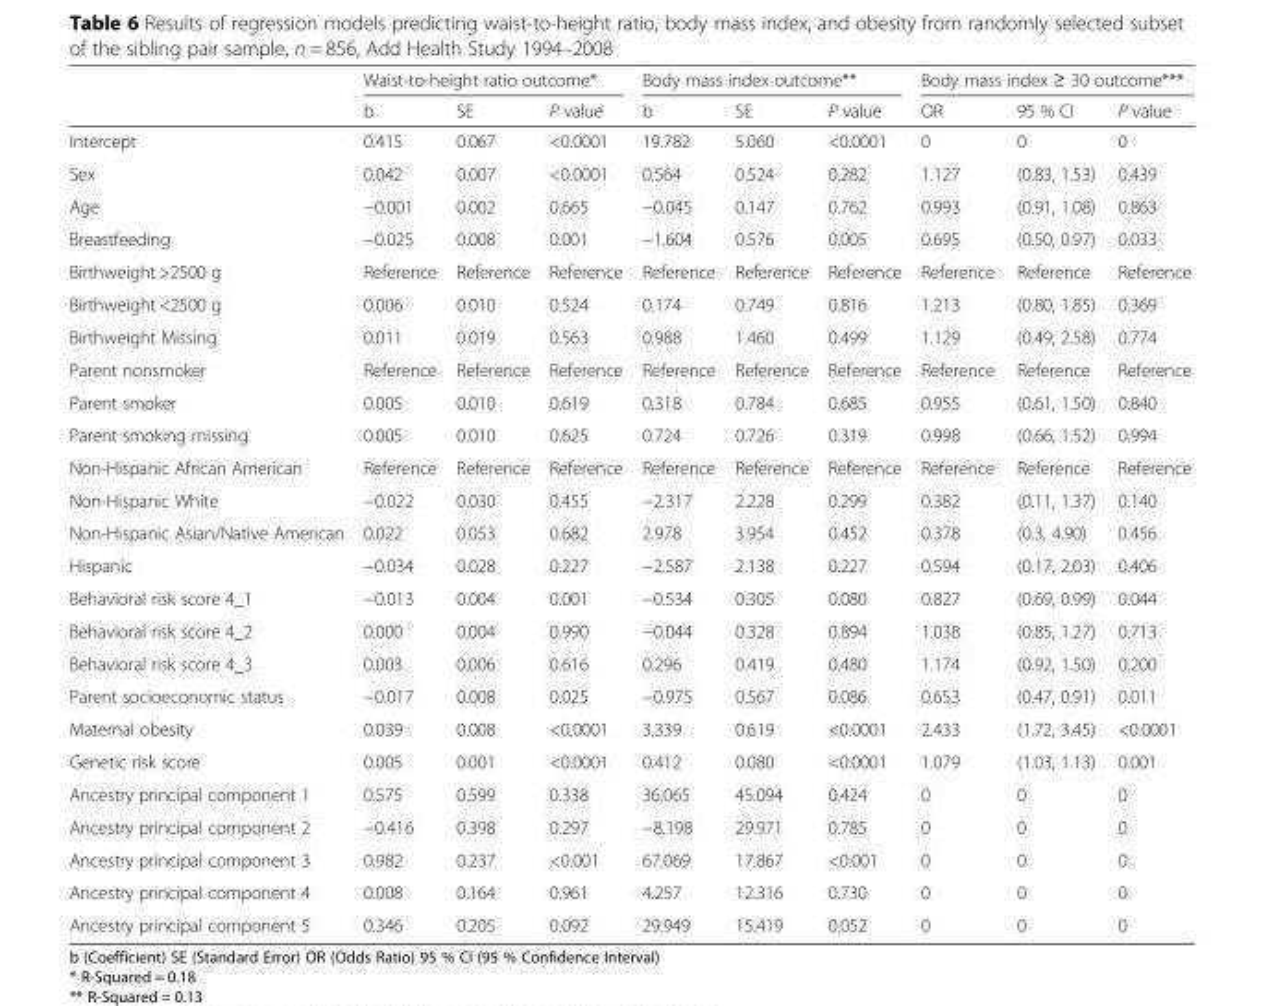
<table><thead><tr><td rowspan="2"></td><td colspan="3">Waist-to-height ratio outcome*</td><td colspan="3">Body mass index outcome**</td><td colspan="3">Body mass index ≥ 30 outcome***</td></tr><tr><td>b</td><td>SE</td><td>P value</td><td>b</td><td>SE</td><td>P value</td><td>OR</td><td>95 % CI</td><td>P value</td></tr></thead><tbody><tr><td>Intercept</td><td>0.415</td><td>0.067</td><td>&lt;0.0001</td><td>19.782</td><td>5.060</td><td>&lt;0.0001</td><td>0</td><td>0</td><td>0</td></tr><tr><td>Sex</td><td>0.042</td><td>0.007</td><td>&lt;0.0001</td><td>0.564</td><td>0.524</td><td>0.282</td><td>1.127</td><td>(0.83, 1.53)</td><td>0.439</td></tr><tr><td>Age</td><td>−0.001</td><td>0.002</td><td>0.665</td><td>−0.045</td><td>0.147</td><td>0.762</td><td>0.993</td><td>(0.91, 1.08)</td><td>0.863</td></tr><tr><td>Breastfeeding</td><td>−0.025</td><td>0.008</td><td>0.001</td><td>−1.604</td><td>0.576</td><td>0.005</td><td>0.695</td><td>(0.50, 0.97)</td><td>0.033</td></tr><tr><td>Birthweight &gt;2500 g</td><td>Reference</td><td>Reference</td><td>Reference</td><td>Reference</td><td>Reference</td><td>Reference</td><td>Reference</td><td>Reference</td><td>Reference</td></tr><tr><td>Birthweight &lt;2500 g</td><td>0.006</td><td>0.010</td><td>0.524</td><td>0.174</td><td>0.749</td><td>0.816</td><td>1.213</td><td>(0.80, 1.85)</td><td>0.369</td></tr><tr><td>Birthweight Missing</td><td>0.011</td><td>0.019</td><td>0.563</td><td>0.988</td><td>1.460</td><td>0.499</td><td>1.129</td><td>(0.49, 2.58)</td><td>0.774</td></tr><tr><td>Parent nonsmoker</td><td>Reference</td><td>Reference</td><td>Reference</td><td>Reference</td><td>Reference</td><td>Reference</td><td>Reference</td><td>Reference</td><td>Reference</td></tr><tr><td>Parent smoker</td><td>0.005</td><td>0.010</td><td>0.619</td><td>0.318</td><td>0.784</td><td>0.685</td><td>0.955</td><td>(0.61, 1.50)</td><td>0.840</td></tr><tr><td>Parent smoking missing</td><td>0.005</td><td>0.010</td><td>0.625</td><td>0.724</td><td>0.726</td><td>0.319</td><td>0.998</td><td>(0.66, 1.52)</td><td>0.994</td></tr><tr><td>Non-Hispanic African American</td><td>Reference</td><td>Reference</td><td>Reference</td><td>Reference</td><td>Reference</td><td>Reference</td><td>Reference</td><td>Reference</td><td>Reference</td></tr><tr><td>Non-Hispanic White</td><td>−0.022</td><td>0.030</td><td>0.455</td><td>−2.317</td><td>2.228</td><td>0.299</td><td>0.382</td><td>(0.11, 1.37)</td><td>0.140</td></tr><tr><td>Non-Hispanic Asian/Native American</td><td>0.022</td><td>0.053</td><td>0.682</td><td>2.978</td><td>3.954</td><td>0.452</td><td>0.378</td><td>(0.3, 4.90)</td><td>0.456</td></tr><tr><td>Hispanic</td><td>−0.034</td><td>0.028</td><td>0.227</td><td>−2.587</td><td>2.138</td><td>0.227</td><td>0.594</td><td>(0.17, 2.03)</td><td>0.406</td></tr><tr><td>Behavioral risk score 4_1</td><td>−0.013</td><td>0.004</td><td>0.001</td><td>−0.534</td><td>0.305</td><td>0.080</td><td>0.827</td><td>(0.69, 0.99)</td><td>0.044</td></tr><tr><td>Behavioral risk score 4_2</td><td>0.000</td><td>0.004</td><td>0.990</td><td>−0.044</td><td>0.328</td><td>0.894</td><td>1.038</td><td>(0.85, 1.27)</td><td>0.713</td></tr><tr><td>Behavioral risk score 4_3</td><td>0.003</td><td>0.006</td><td>0.616</td><td>0.296</td><td>0.419</td><td>0.480</td><td>1.174</td><td>(0.92, 1.50)</td><td>0.200</td></tr><tr><td>Parent socioeconomic status</td><td>−0.017</td><td>0.008</td><td>0.025</td><td>−0.975</td><td>0.567</td><td>0.086</td><td>0.653</td><td>(0.47, 0.91)</td><td>0.011</td></tr><tr><td>Maternal obesity</td><td>0.039</td><td>0.008</td><td>&lt;0.0001</td><td>3.339</td><td>0.619</td><td>&lt;0.0001</td><td>2.433</td><td>(1.72, 3.45)</td><td>&lt;0.0001</td></tr><tr><td>Genetic risk score</td><td>0.005</td><td>0.001</td><td>&lt;0.0001</td><td>0.412</td><td>0.080</td><td>&lt;0.0001</td><td>1.079</td><td>(1.03, 1.13)</td><td>0.001</td></tr><tr><td>Ancestry principal component 1</td><td>0.575</td><td>0.599</td><td>0.338</td><td>36.065</td><td>45.094</td><td>0.424</td><td>0</td><td>0</td><td>0</td></tr><tr><td>Ancestry principal component 2</td><td>−0.416</td><td>0.398</td><td>0.297</td><td>−8.198</td><td>29.971</td><td>0.785</td><td>0</td><td>0</td><td>0</td></tr><tr><td>Ancestry principal component 3</td><td>0.982</td><td>0.237</td><td>&lt;0.001</td><td>67.069</td><td>17.867</td><td>&lt;0.001</td><td>0</td><td>0</td><td>0</td></tr><tr><td>Ancestry principal component 4</td><td>0.008</td><td>0.164</td><td>0.961</td><td>4.257</td><td>12.316</td><td>0.730</td><td>0</td><td>0</td><td>0</td></tr><tr><td>Ancestry principal component 5</td><td>0.346</td><td>0.205</td><td>0.092</td><td>29.949</td><td>15.419</td><td>0.052</td><td>0</td><td>0</td><td>0</td></tr></tbody></table>